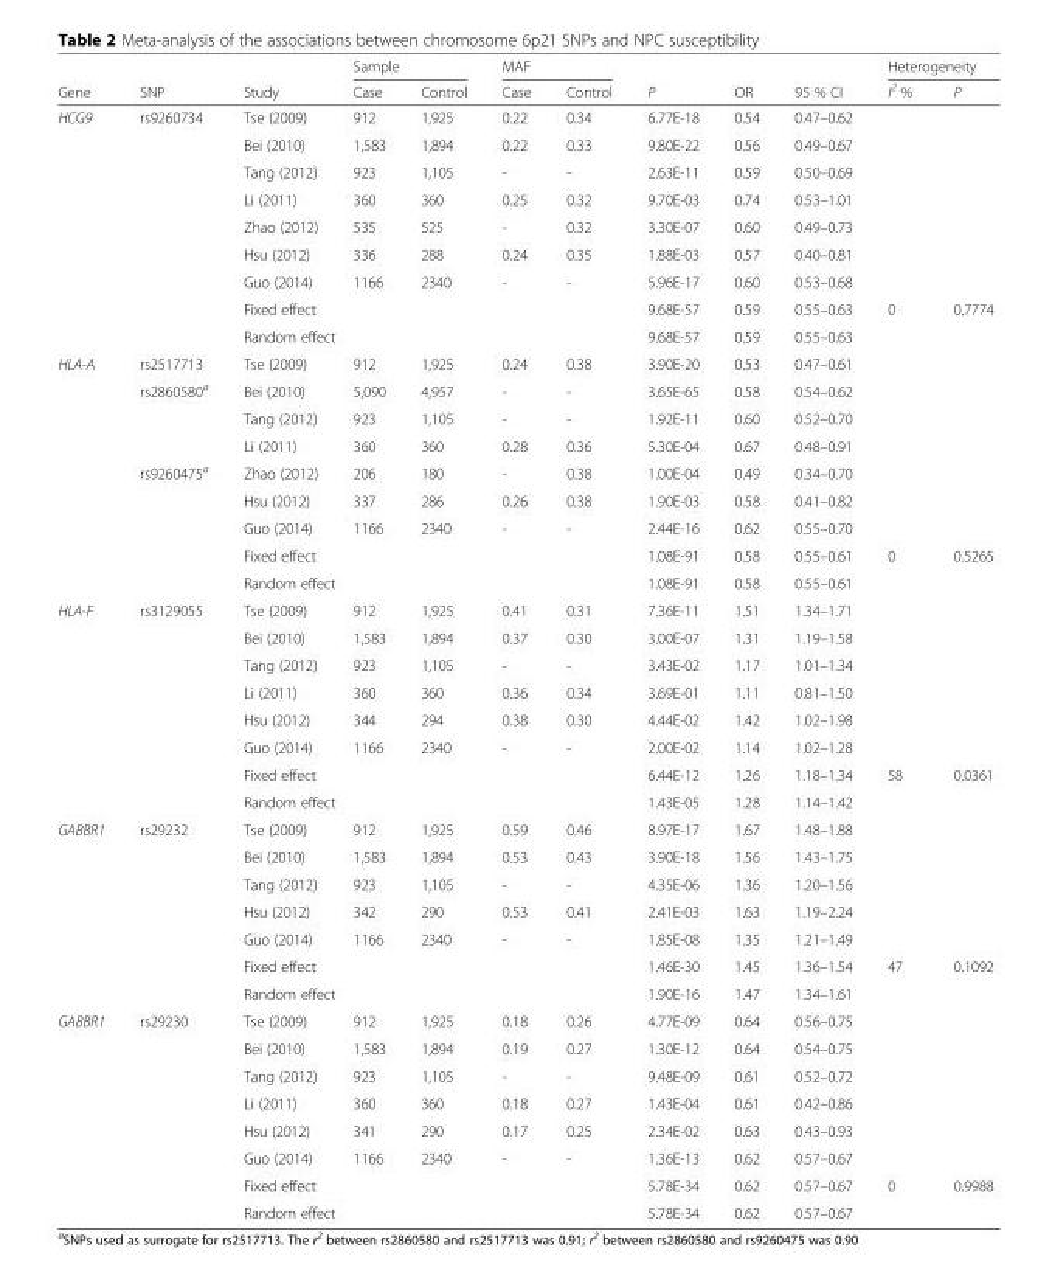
<table><thead><tr><td rowspan="2">Gene</td><td rowspan="2">SNP</td><td rowspan="2">Study</td><td colspan="2">Sample</td><td colspan="2">MAF</td><td rowspan="2">P</td><td rowspan="2">OR</td><td rowspan="2">95 % CI</td><td colspan="2">Heterogeneity</td></tr><tr><td>Case</td><td>Control</td><td>Case</td><td>Control</td><td>I<sup>2</sup> %</td><td>P</td></tr></thead><tbody><tr><td rowspan="9">HCG9</td><td>rs9260734</td><td>Tse (2009)</td><td>912</td><td>1,925</td><td>0.22</td><td>0.34</td><td>6.77E-18</td><td>0.54</td><td>0.47–0.62</td><td></td><td></td></tr><tr><td></td><td>Bei (2010)</td><td>1,583</td><td>1,894</td><td>0.22</td><td>0.33</td><td>9.80E-22</td><td>0.56</td><td>0.49–0.67</td><td></td><td></td></tr><tr><td></td><td>Tang (2012)</td><td>923</td><td>1,105</td><td>-</td><td>-</td><td>2.63E-11</td><td>0.59</td><td>0.50–0.69</td><td></td><td></td></tr><tr><td></td><td>Li (2011)</td><td>360</td><td>360</td><td>0.25</td><td>0.32</td><td>9.70E-03</td><td>0.74</td><td>0.53–1.01</td><td></td><td></td></tr><tr><td></td><td>Zhao (2012)</td><td>535</td><td>525</td><td>-</td><td>0.32</td><td>3.30E-07</td><td>0.60</td><td>0.49–0.73</td><td></td><td></td></tr><tr><td></td><td>Hsu (2012)</td><td>336</td><td>288</td><td>0.24</td><td>0.35</td><td>1.88E-03</td><td>0.57</td><td>0.40–0.81</td><td></td><td></td></tr><tr><td></td><td>Guo (2014)</td><td>1166</td><td>2340</td><td>-</td><td>-</td><td>5.96E-17</td><td>0.60</td><td>0.53–0.68</td><td></td><td></td></tr><tr><td></td><td>Fixed effect</td><td></td><td></td><td></td><td></td><td>9.68E-57</td><td>0.59</td><td>0.55–0.63</td><td>0</td><td>0.7774</td></tr><tr><td></td><td colspan="2">Random effect</td><td></td><td></td><td></td><td>9.68E-57</td><td>0.59</td><td>0.55–0.63</td><td></td><td></td></tr><tr><td rowspan="9">HLA-A</td><td>rs2517713</td><td>Tse (2009)</td><td>912</td><td>1,925</td><td>0.24</td><td>0.38</td><td>3.90E-20</td><td>0.53</td><td>0.47–0.61</td><td></td><td></td></tr><tr><td>rs2860580<sup>a</sup></td><td>Bei (2010)</td><td>5,090</td><td>4,957</td><td>-</td><td>-</td><td>3.65E-65</td><td>0.58</td><td>0.54–0.62</td><td></td><td></td></tr><tr><td></td><td>Tang (2012)</td><td>923</td><td>1,105</td><td>-</td><td>-</td><td>1.92E-11</td><td>0.60</td><td>0.52–0.70</td><td></td><td></td></tr><tr><td></td><td>Li (2011)</td><td>360</td><td>360</td><td>0.28</td><td>0.36</td><td>5.30E-04</td><td>0.67</td><td>0.48–0.91</td><td></td><td></td></tr><tr><td>rs9260475<sup>a</sup></td><td>Zhao (2012)</td><td>206</td><td>180</td><td>-</td><td>0.38</td><td>1.00E-04</td><td>0.49</td><td>0.34–0.70</td><td></td><td></td></tr><tr><td></td><td>Hsu (2012)</td><td>337</td><td>286</td><td>0.26</td><td>0.38</td><td>1.90E-03</td><td>0.58</td><td>0.41–0.82</td><td></td><td></td></tr><tr><td></td><td>Guo (2014)</td><td>1166</td><td>2340</td><td>-</td><td>-</td><td>2.44E-16</td><td>0.62</td><td>0.55–0.70</td><td></td><td></td></tr><tr><td></td><td>Fixed effect</td><td></td><td></td><td></td><td></td><td>1.08E-91</td><td>0.58</td><td>0.55–0.61</td><td>0</td><td>0.5265</td></tr><tr><td></td><td colspan="2">Random effect</td><td></td><td></td><td></td><td>1.08E-91</td><td>0.58</td><td>0.55–0.61</td><td></td><td></td></tr><tr><td rowspan="8">HLA-F</td><td>rs3129055</td><td>Tse (2009)</td><td>912</td><td>1,925</td><td>0.41</td><td>0.31</td><td>7.36E-11</td><td>1.51</td><td>1.34–1.71</td><td></td><td></td></tr><tr><td></td><td>Bei (2010)</td><td>1,583</td><td>1,894</td><td>0.37</td><td>0.30</td><td>3.00E-07</td><td>1.31</td><td>1.19–1.58</td><td></td><td></td></tr><tr><td></td><td>Tang (2012)</td><td>923</td><td>1,105</td><td>-</td><td>-</td><td>3.43E-02</td><td>1.17</td><td>1.01–1.34</td><td></td><td></td></tr><tr><td></td><td>Li (2011)</td><td>360</td><td>360</td><td>0.36</td><td>0.34</td><td>3.69E-01</td><td>1.11</td><td>0.81–1.50</td><td></td><td></td></tr><tr><td></td><td>Hsu (2012)</td><td>344</td><td>294</td><td>0.38</td><td>0.30</td><td>4.44E-02</td><td>1.42</td><td>1.02–1.98</td><td></td><td></td></tr><tr><td></td><td>Guo (2014)</td><td>1166</td><td>2340</td><td>-</td><td>-</td><td>2.00E-02</td><td>1.14</td><td>1.02–1.28</td><td></td><td></td></tr><tr><td></td><td>Fixed effect</td><td></td><td></td><td></td><td></td><td>6.44E-12</td><td>1.26</td><td>1.18–1.34</td><td>58</td><td>0.0361</td></tr><tr><td></td><td colspan="2">Random effect</td><td></td><td></td><td></td><td>1.43E-05</td><td>1.28</td><td>1.14–1.42</td><td></td><td></td></tr><tr><td rowspan="7">GABBR1</td><td>rs29232</td><td>Tse (2009)</td><td>912</td><td>1,925</td><td>0.59</td><td>0.46</td><td>8.97E-17</td><td>1.67</td><td>1.48–1.88</td><td></td><td></td></tr><tr><td></td><td>Bei (2010)</td><td>1,583</td><td>1,894</td><td>0.53</td><td>0.43</td><td>3.90E-18</td><td>1.56</td><td>1.43–1.75</td><td></td><td></td></tr><tr><td></td><td>Tang (2012)</td><td>923</td><td>1,105</td><td>-</td><td>-</td><td>4.35E-06</td><td>1.36</td><td>1.20–1.56</td><td></td><td></td></tr><tr><td></td><td>Hsu (2012)</td><td>342</td><td>290</td><td>0.53</td><td>0.41</td><td>2.41E-03</td><td>1.63</td><td>1.19–2.24</td><td></td><td></td></tr><tr><td></td><td>Guo (2014)</td><td>1166</td><td>2340</td><td>-</td><td>-</td><td>1.85E-08</td><td>1.35</td><td>1.21–1.49</td><td></td><td></td></tr><tr><td></td><td>Fixed effect</td><td></td><td></td><td></td><td></td><td>1.46E-30</td><td>1.45</td><td>1.36–1.54</td><td>47</td><td>0.1092</td></tr><tr><td></td><td colspan="2">Random effect</td><td></td><td></td><td></td><td>1.90E-16</td><td>1.47</td><td>1.34–1.61</td><td></td><td></td></tr><tr><td rowspan="8">GABBR1</td><td>rs29230</td><td>Tse (2009)</td><td>912</td><td>1,925</td><td>0.18</td><td>0.26</td><td>4.77E-09</td><td>0.64</td><td>0.56–0.75</td><td></td><td></td></tr><tr><td></td><td>Bei (2010)</td><td>1,583</td><td>1,894</td><td>0.19</td><td>0.27</td><td>1.30E-12</td><td>0.64</td><td>0.54–0.75</td><td></td><td></td></tr><tr><td></td><td>Tang (2012)</td><td>923</td><td>1,105</td><td>-</td><td>-</td><td>9.48E-09</td><td>0.61</td><td>0.52–0.72</td><td></td><td></td></tr><tr><td></td><td>Li (2011)</td><td>360</td><td>360</td><td>0.18</td><td>0.27</td><td>1.43E-04</td><td>0.61</td><td>0.42–0.86</td><td></td><td></td></tr><tr><td></td><td>Hsu (2012)</td><td>341</td><td>290</td><td>0.17</td><td>0.25</td><td>2.34E-02</td><td>0.63</td><td>0.43–0.93</td><td></td><td></td></tr><tr><td></td><td>Guo (2014)</td><td>1166</td><td>2340</td><td>-</td><td>-</td><td>1.36E-13</td><td>0.62</td><td>0.57–0.67</td><td></td><td></td></tr><tr><td></td><td>Fixed effect</td><td></td><td></td><td></td><td></td><td>5.78E-34</td><td>0.62</td><td>0.57–0.67</td><td>0</td><td>0.9988</td></tr><tr><td></td><td colspan="2">Random effect</td><td></td><td></td><td></td><td>5.78E-34</td><td>0.62</td><td>0.57–0.67</td><td></td><td></td></tr></tbody></table>